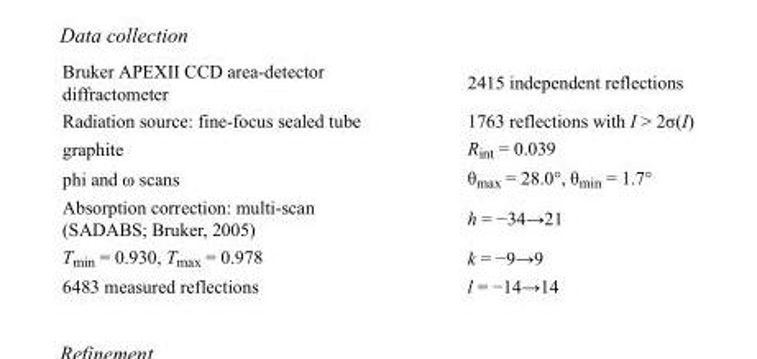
<table><tbody><tr><td>Bruker APEXII CCD area-detector diffractometer</td><td>2415 independent reflections</td></tr><tr><td>Radiation source: fine-focus sealed tube</td><td>1763 reflections with I &gt; 2σ(I)</td></tr><tr><td>graphite</td><td>R<sub>int</sub> = 0.039</td></tr><tr><td>phi and ω scans</td><td>θ<sub>max</sub> = 28.0°, θ<sub>min</sub> = 1.7°</td></tr><tr><td>Absorption correction: multi-scan (SADABS; Bruker, 2005)</td><td>h = −34→21</td></tr><tr><td>T<sub>min</sub> = 0.930, T<sub>max</sub> = 0.978</td><td>k = −9→9</td></tr><tr><td>6483 measured reflections</td><td>l = −14→14</td></tr></tbody></table>